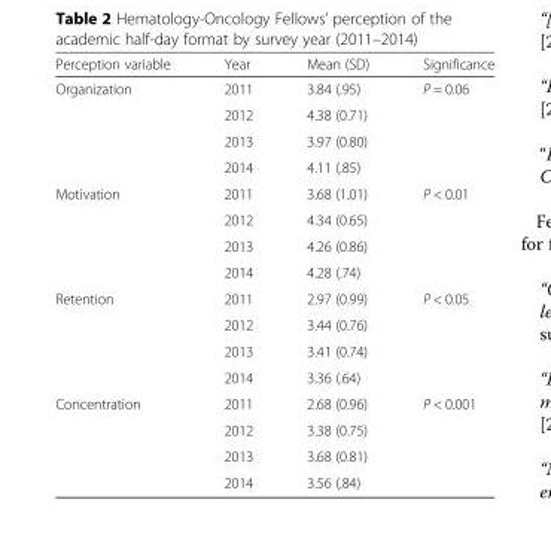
<table><thead><tr><td>Perception variable</td><td>Year</td><td>Mean (SD)</td><td>Significance</td></tr></thead><tbody><tr><td rowspan="4">Organization</td><td>2011</td><td>3.84 (.95)</td><td rowspan="4">P = 0.06</td></tr><tr><td>2012</td><td>4.38 (0.71)</td></tr><tr><td>2013</td><td>3.97 (0.80)</td></tr><tr><td>2014</td><td>4.11 (.85)</td></tr><tr><td rowspan="4">Motivation</td><td>2011</td><td>3.68 (1.01)</td><td rowspan="4">P &lt; 0.01</td></tr><tr><td>2012</td><td>4.34 (0.65)</td></tr><tr><td>2013</td><td>4.26 (0.86)</td></tr><tr><td>2014</td><td>4.28 (.74)</td></tr><tr><td rowspan="4">Retention</td><td>2011</td><td>2.97 (0.99)</td><td rowspan="4">P &lt; 0.05</td></tr><tr><td>2012</td><td>3.44 (0.76)</td></tr><tr><td>2013</td><td>3.41 (0.74)</td></tr><tr><td>2014</td><td>3.36 (.64)</td></tr><tr><td rowspan="4">Concentration</td><td>2011</td><td>2.68 (0.96)</td><td rowspan="4">P &lt; 0.001</td></tr><tr><td>2012</td><td>3.38 (0.75)</td></tr><tr><td>2013</td><td>3.68 (0.81)</td></tr><tr><td>2014</td><td>3.56 (.84)</td></tr></tbody></table>